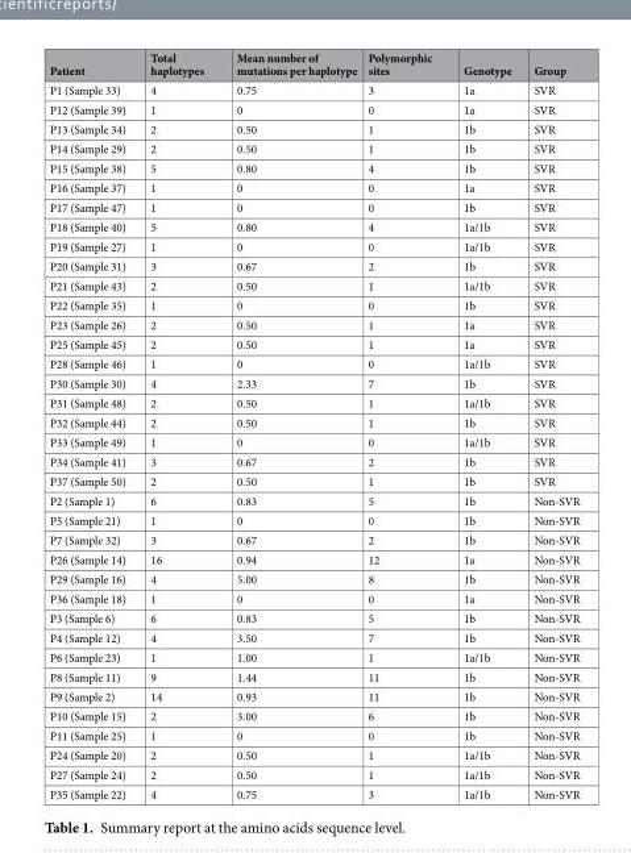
<table><thead><tr><td>Patient</td><td>Total haplotypes</td><td>Mean number of mutations per haplotype</td><td>Polymorphic sites</td><td>Genotype</td><td>Group</td></tr></thead><tbody><tr><td>P1 (Sample 33)</td><td>4</td><td>0.75</td><td>3</td><td>1a</td><td>SVR</td></tr><tr><td>P12 (Sample 39)</td><td>1</td><td>0</td><td>0</td><td>1a</td><td>SVR</td></tr><tr><td>P13 (Sample 34)</td><td>2</td><td>0.50</td><td>1</td><td>1b</td><td>SVR</td></tr><tr><td>P14 (Sample 29)</td><td>2</td><td>0.50</td><td>1</td><td>1b</td><td>SVR</td></tr><tr><td>P15 (Sample 38)</td><td>5</td><td>0.80</td><td>4</td><td>1b</td><td>SVR</td></tr><tr><td>P16 (Sample 37)</td><td>1</td><td>0</td><td>0</td><td>1a</td><td>SVR</td></tr><tr><td>P17 (Sample 47)</td><td>1</td><td>0</td><td>0</td><td>1b</td><td>SVR</td></tr><tr><td>P18 (Sample 40)</td><td>5</td><td>0.80</td><td>4</td><td>1a/1b</td><td>SVR</td></tr><tr><td>P19 (Sample 27)</td><td>1</td><td>0</td><td>0</td><td>1a/1b</td><td>SVR</td></tr><tr><td>P20 (Sample 31)</td><td>3</td><td>0.67</td><td>2</td><td>1b</td><td>SVR</td></tr><tr><td>P21 (Sample 43)</td><td>2</td><td>0.50</td><td>1</td><td>1a/1b</td><td>SVR</td></tr><tr><td>P22 (Sample 35)</td><td>1</td><td>0</td><td>0</td><td>1b</td><td>SVR</td></tr><tr><td>P23 (Sample 26)</td><td>2</td><td>0.50</td><td>1</td><td>1a</td><td>SVR</td></tr><tr><td>P25 (Sample 45)</td><td>2</td><td>0.50</td><td>1</td><td>1a</td><td>SVR</td></tr><tr><td>P28 (Sample 46)</td><td>1</td><td>0</td><td>0</td><td>1a/1b</td><td>SVR</td></tr><tr><td>P30 (Sample 30)</td><td>4</td><td>2.33</td><td>7</td><td>1b</td><td>SVR</td></tr><tr><td>P31 (Sample 48)</td><td>2</td><td>0.50</td><td>1</td><td>1a/1b</td><td>SVR</td></tr><tr><td>P32 (Sample 44)</td><td>2</td><td>0.50</td><td>1</td><td>1b</td><td>SVR</td></tr><tr><td>P33 (Sample 49)</td><td>1</td><td>0</td><td>0</td><td>1a/1b</td><td>SVR</td></tr><tr><td>P34 (Sample 41)</td><td>3</td><td>0.67</td><td>2</td><td>1b</td><td>SVR</td></tr><tr><td>P37 (Sample 50)</td><td>2</td><td>0.50</td><td>1</td><td>1b</td><td>SVR</td></tr><tr><td>P2 (Sample 1)</td><td>6</td><td>0.83</td><td>5</td><td>1b</td><td>Non-SVR</td></tr><tr><td>P5 (Sample 21)</td><td>1</td><td>0</td><td>0</td><td>1b</td><td>Non-SVR</td></tr><tr><td>P7 (Sample 32)</td><td>3</td><td>0.67</td><td>2</td><td>1b</td><td>Non-SVR</td></tr><tr><td>P26 (Sample 14)</td><td>16</td><td>0.94</td><td>12</td><td>1a</td><td>Non-SVR</td></tr><tr><td>P29 (Sample 16)</td><td>4</td><td>5.00</td><td>8</td><td>1b</td><td>Non-SVR</td></tr><tr><td>P36 (Sample 18)</td><td>1</td><td>0</td><td>0</td><td>1a</td><td>Non-SVR</td></tr><tr><td>P3 (Sample 6)</td><td>6</td><td>0.83</td><td>5</td><td>1b</td><td>Non-SVR</td></tr><tr><td>P4 (Sample 12)</td><td>4</td><td>3.50</td><td>7</td><td>1b</td><td>Non-SVR</td></tr><tr><td>P6 (Sample 23)</td><td>1</td><td>1.00</td><td>1</td><td>1a/1b</td><td>Non-SVR</td></tr><tr><td>P8 (Sample 11)</td><td>9</td><td>1.44</td><td>11</td><td>1b</td><td>Non-SVR</td></tr><tr><td>P9 (Sample 2)</td><td>14</td><td>0.93</td><td>11</td><td>1b</td><td>Non-SVR</td></tr><tr><td>P10 (Sample 15)</td><td>2</td><td>3.00</td><td>6</td><td>1b</td><td>Non-SVR</td></tr><tr><td>P11 (Sample 25)</td><td>1</td><td>0</td><td>0</td><td>1b</td><td>Non-SVR</td></tr><tr><td>P24 (Sample 20)</td><td>2</td><td>0.50</td><td>1</td><td>1a/1b</td><td>Non-SVR</td></tr><tr><td>P27 (Sample 24)</td><td>2</td><td>0.50</td><td>1</td><td>1a/1b</td><td>Non-SVR</td></tr><tr><td>P35 (Sample 22)</td><td>4</td><td>0.75</td><td>3</td><td>1a/1b</td><td>Non-SVR</td></tr></tbody></table>